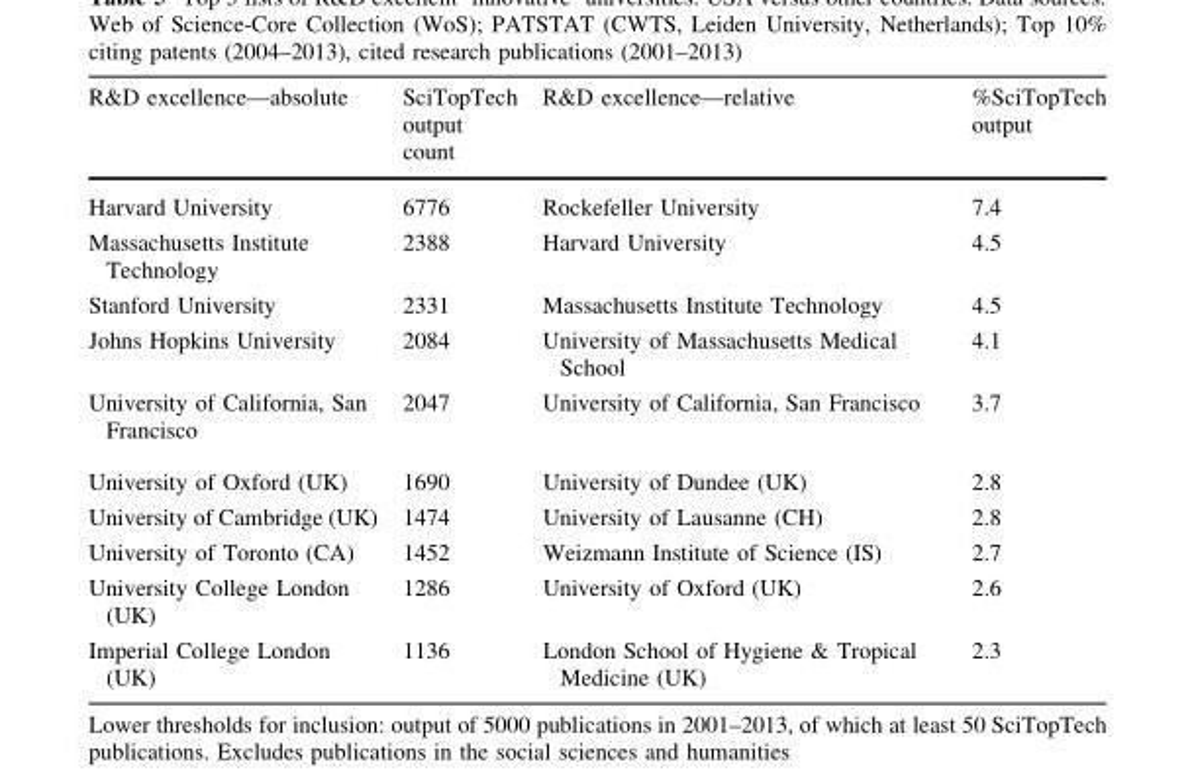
<table><thead><tr><td>R&amp;D excellence—absolute</td><td>SciTopTech output count</td><td>R&amp;D excellence—relative</td><td>%SciTopTech output</td></tr></thead><tbody><tr><td>Harvard University</td><td>6776</td><td>Rockefeller University</td><td>7.4</td></tr><tr><td>Massachusetts Institute Technology</td><td>2388</td><td>Harvard University</td><td>4.5</td></tr><tr><td>Stanford University</td><td>2331</td><td>Massachusetts Institute Technology</td><td>4.5</td></tr><tr><td>Johns Hopkins University</td><td>2084</td><td>University of Massachusetts Medical School</td><td>4.1</td></tr><tr><td>University of California, San Francisco</td><td>2047</td><td>University of California, San Francisco</td><td>3.7</td></tr><tr><td>University of Oxford (UK)</td><td>1690</td><td>University of Dundee (UK)</td><td>2.8</td></tr><tr><td>University of Cambridge (UK)</td><td>1474</td><td>University of Lausanne (CH)</td><td>2.8</td></tr><tr><td>University of Toronto (CA)</td><td>1452</td><td>Weizmann Institute of Science (IS)</td><td>2.7</td></tr><tr><td>University College London (UK)</td><td>1286</td><td>University of Oxford (UK)</td><td>2.6</td></tr><tr><td>Imperial College London (UK)</td><td>1136</td><td>London School of Hygiene &amp; Tropical Medicine (UK)</td><td>2.3</td></tr></tbody></table>